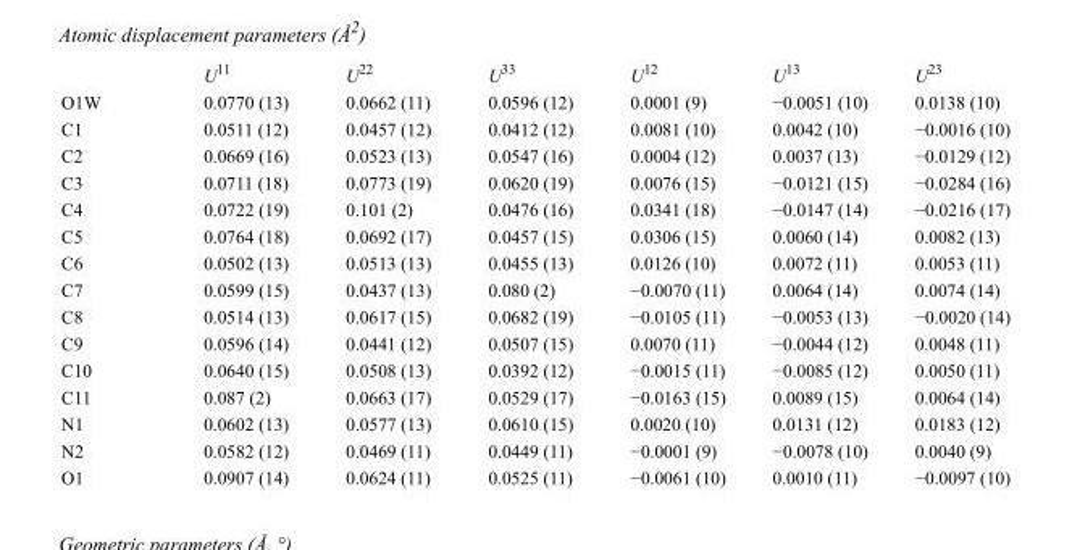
<table><thead><tr><td></td><td>U<sup>11</sup></td><td>U<sup>22</sup></td><td>U<sup>33</sup></td><td>U<sup>12</sup></td><td>U<sup>13</sup></td><td>U<sup>23</sup></td></tr></thead><tbody><tr><td>O1W</td><td>0.0770 (13)</td><td>0.0662 (11)</td><td>0.0596 (12)</td><td>0.0001 (9)</td><td>−0.0051 (10)</td><td>0.0138 (10)</td></tr><tr><td>C1</td><td>0.0511 (12)</td><td>0.0457 (12)</td><td>0.0412 (12)</td><td>0.0081 (10)</td><td>0.0042 (10)</td><td>−0.0016 (10)</td></tr><tr><td>C2</td><td>0.0669 (16)</td><td>0.0523 (13)</td><td>0.0547 (16)</td><td>0.0004 (12)</td><td>0.0037 (13)</td><td>−0.0129 (12)</td></tr><tr><td>C3</td><td>0.0711 (18)</td><td>0.0773 (19)</td><td>0.0620 (19)</td><td>0.0076 (15)</td><td>−0.0121 (15)</td><td>−0.0284 (16)</td></tr><tr><td>C4</td><td>0.0722 (19)</td><td>0.101 (2)</td><td>0.0476 (16)</td><td>0.0341 (18)</td><td>−0.0147 (14)</td><td>−0.0216 (17)</td></tr><tr><td>C5</td><td>0.0764 (18)</td><td>0.0692 (17)</td><td>0.0457 (15)</td><td>0.0306 (15)</td><td>0.0060 (14)</td><td>0.0082 (13)</td></tr><tr><td>C6</td><td>0.0502 (13)</td><td>0.0513 (13)</td><td>0.0455 (13)</td><td>0.0126 (10)</td><td>0.0072 (11)</td><td>0.0053 (11)</td></tr><tr><td>C7</td><td>0.0599 (15)</td><td>0.0437 (13)</td><td>0.080 (2)</td><td>−0.0070 (11)</td><td>0.0064 (14)</td><td>0.0074 (14)</td></tr><tr><td>C8</td><td>0.0514 (13)</td><td>0.0617 (15)</td><td>0.0682 (19)</td><td>−0.0105 (11)</td><td>−0.0053 (13)</td><td>−0.0020 (14)</td></tr><tr><td>C9</td><td>0.0596 (14)</td><td>0.0441 (12)</td><td>0.0507 (15)</td><td>0.0070 (11)</td><td>−0.0044 (12)</td><td>0.0048 (11)</td></tr><tr><td>C10</td><td>0.0640 (15)</td><td>0.0508 (13)</td><td>0.0392 (12)</td><td>−0.0015 (11)</td><td>−0.0085 (12)</td><td>0.0050 (11)</td></tr><tr><td>C11</td><td>0.087 (2)</td><td>0.0663 (17)</td><td>0.0529 (17)</td><td>−0.0163 (15)</td><td>0.0089 (15)</td><td>0.0064 (14)</td></tr><tr><td>N1</td><td>0.0602 (13)</td><td>0.0577 (13)</td><td>0.0610 (15)</td><td>0.0020 (10)</td><td>0.0131 (12)</td><td>0.0183 (12)</td></tr><tr><td>N2</td><td>0.0582 (12)</td><td>0.0469 (11)</td><td>0.0449 (11)</td><td>−0.0001 (9)</td><td>−0.0078 (10)</td><td>0.0040 (9)</td></tr><tr><td>O1</td><td>0.0907 (14)</td><td>0.0624 (11)</td><td>0.0525 (11)</td><td>−0.0061 (10)</td><td>0.0010 (11)</td><td>−0.0097 (10)</td></tr></tbody></table>